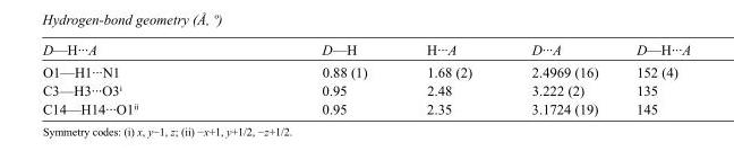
<table><tbody><tr><td>D—H···A</td><td>D—H</td><td>H···A</td><td>D···A</td><td>D—H···A</td></tr><tr><td>O1—H1···N1</td><td>0.88 (1)</td><td>1.68 (2)</td><td>2.4969 (16)</td><td>152 (4)</td></tr><tr><td>C3—H3···O3<sup>i</sup></td><td>0.95</td><td>2.48</td><td>3.222 (2)</td><td>135</td></tr><tr><td>C14—H14···O1<sup>ii</sup></td><td>0.95</td><td>2.35</td><td>3.1724 (19)</td><td>145</td></tr></tbody></table>